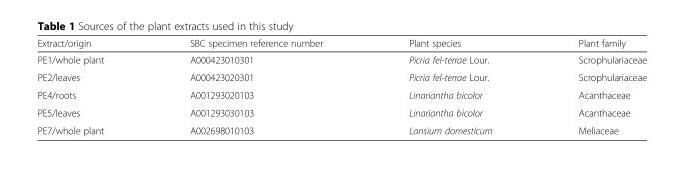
<table><thead><tr><td>Extract/origin</td><td>SBC specimen reference number</td><td>Plant species</td><td>Plant family</td></tr></thead><tbody><tr><td>PE1/whole plant</td><td>A000423010301</td><td>Picria fel-terrae Lour.</td><td>Scrophulariaceae</td></tr><tr><td>PE2/leaves</td><td>A000423020301</td><td>Picria fel-terrae Lour.</td><td>Scrophulariaceae</td></tr><tr><td>PE4/roots</td><td>A001293020103</td><td>Linariantha bicolor</td><td>Acanthaceae</td></tr><tr><td>PE5/leaves</td><td>A001293030103</td><td>Linariantha bicolor</td><td>Acanthaceae</td></tr><tr><td>PE7/whole plant</td><td>A002698010103</td><td>Lansium domesticum</td><td>Meliaceae</td></tr></tbody></table>